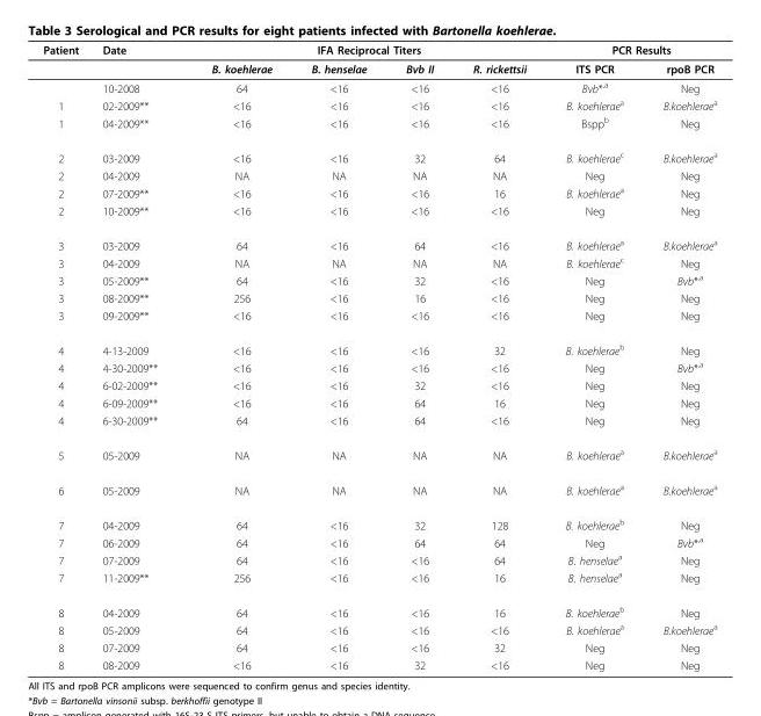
<table><thead><tr><td rowspan="2">Patient</td><td rowspan="2">Date</td><td colspan="4">IFA Reciprocal Titers</td><td colspan="2">PCR Results</td></tr><tr><td>B. koehlerae</td><td>B. henselae</td><td>Bvb II</td><td>R. rickettsii</td><td>ITS PCR</td><td>rpoB PCR</td></tr></thead><tbody><tr><td></td><td>10-2008</td><td>64</td><td>&lt;16</td><td>&lt;16</td><td>&lt;16</td><td>Bvb*<sup>,a</sup></td><td>Neg</td></tr><tr><td>1</td><td>02-2009**</td><td>&lt;16</td><td>&lt;16</td><td>&lt;16</td><td>&lt;16</td><td>B. koehlerae<sup>a</sup></td><td>B.koehlerae<sup>a</sup></td></tr><tr><td>1</td><td>04-2009**</td><td>&lt;16</td><td>&lt;16</td><td>&lt;16</td><td>&lt;16</td><td>Bspp<sup>b</sup></td><td>Neg</td></tr><tr><td>2</td><td>03-2009</td><td>&lt;16</td><td>&lt;16</td><td>32</td><td>64</td><td>B. koehlerae<sup>c</sup></td><td>B.koehlerae<sup>a</sup></td></tr><tr><td>2</td><td>04-2009</td><td>NA</td><td>NA</td><td>NA</td><td>NA</td><td>Neg</td><td>Neg</td></tr><tr><td>2</td><td>07-2009**</td><td>&lt;16</td><td>&lt;16</td><td>&lt;16</td><td>16</td><td>B. koehlerae<sup>a</sup></td><td>Neg</td></tr><tr><td>2</td><td>10-2009**</td><td>&lt;16</td><td>&lt;16</td><td>&lt;16</td><td>&lt;16</td><td>Neg</td><td>Neg</td></tr><tr><td>3</td><td>03-2009</td><td>64</td><td>&lt;16</td><td>64</td><td>&lt;16</td><td>B. koehlerae<sup>a</sup></td><td>B.koehlerae<sup>a</sup></td></tr><tr><td>3</td><td>04-2009</td><td>NA</td><td>NA</td><td>NA</td><td>NA</td><td>B. koehlerae<sup>c</sup></td><td>Neg</td></tr><tr><td>3</td><td>05-2009**</td><td>64</td><td>&lt;16</td><td>32</td><td>&lt;16</td><td>Neg</td><td>Bvb*<sup>,a</sup></td></tr><tr><td>3</td><td>08-2009**</td><td>256</td><td>&lt;16</td><td>16</td><td>&lt;16</td><td>Neg</td><td>Neg</td></tr><tr><td>3</td><td>09-2009**</td><td>&lt;16</td><td>&lt;16</td><td>&lt;16</td><td>&lt;16</td><td>Neg</td><td>Neg</td></tr><tr><td>4</td><td>4-13-2009</td><td>&lt;16</td><td>&lt;16</td><td>&lt;16</td><td>32</td><td>B. koehlerae<sup>b</sup></td><td>Neg</td></tr><tr><td>4</td><td>4-30-2009**</td><td>&lt;16</td><td>&lt;16</td><td>&lt;16</td><td>&lt;16</td><td>Neg</td><td>Bvb*<sup>,a</sup></td></tr><tr><td>4</td><td>6-02-2009**</td><td>&lt;16</td><td>&lt;16</td><td>32</td><td>&lt;16</td><td>Neg</td><td>Neg</td></tr><tr><td>4</td><td>6-09-2009**</td><td>&lt;16</td><td>&lt;16</td><td>64</td><td>16</td><td>Neg</td><td>Neg</td></tr><tr><td>4</td><td>6-30-2009**</td><td>64</td><td>&lt;16</td><td>64</td><td>&lt;16</td><td>Neg</td><td>Neg</td></tr><tr><td>5</td><td>05-2009</td><td>NA</td><td>NA</td><td>NA</td><td>NA</td><td>B. koehlerae<sup>a</sup></td><td>B.koehlerae<sup>a</sup></td></tr><tr><td>6</td><td>05-2009</td><td>NA</td><td>NA</td><td>NA</td><td>NA</td><td>B. koehlerae<sup>a</sup></td><td>B.koehlerae<sup>a</sup></td></tr><tr><td>7</td><td>04-2009</td><td>64</td><td>&lt;16</td><td>32</td><td>128</td><td>B. koehlerae<sup>b</sup></td><td>Neg</td></tr><tr><td>7</td><td>06-2009</td><td>64</td><td>&lt;16</td><td>64</td><td>64</td><td>Neg</td><td>Bvb*,<sup>a</sup></td></tr><tr><td>7</td><td>07-2009</td><td>64</td><td>&lt;16</td><td>&lt;16</td><td>64</td><td>B. henselae<sup>a</sup></td><td>Neg</td></tr><tr><td>7</td><td>11-2009**</td><td>256</td><td>&lt;16</td><td>&lt;16</td><td>16</td><td>B. henselae<sup>a</sup></td><td>Neg</td></tr><tr><td>8</td><td>04-2009</td><td>64</td><td>&lt;16</td><td>&lt;16</td><td>16</td><td>B. koehlerae<sup>b</sup></td><td>Neg</td></tr><tr><td>8</td><td>05-2009</td><td>64</td><td>&lt;16</td><td>&lt;16</td><td>&lt;16</td><td>B. koehlerae<sup>a</sup></td><td>B.koehlerae<sup>a</sup></td></tr><tr><td>8</td><td>07-2009</td><td>64</td><td>&lt;16</td><td>&lt;16</td><td>32</td><td>Neg</td><td>Neg</td></tr><tr><td>8</td><td>08-2009</td><td>&lt;16</td><td>&lt;16</td><td>32</td><td>&lt;16</td><td>Neg</td><td>Neg</td></tr></tbody></table>